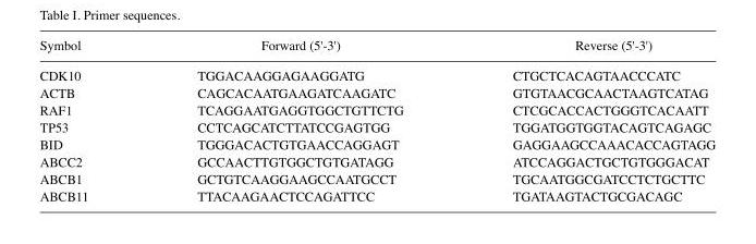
<table><thead><tr><td>Symbol</td><td>Forward (5&#x27;-3&#x27;)</td><td>Reverse (5&#x27;-3&#x27;)</td></tr></thead><tbody><tr><td>CDK10</td><td>TGGACAAGGAGAAGGATG</td><td>CTGCTCACAGTAACCCATC</td></tr><tr><td>ACTB</td><td>CAGCACAATGAAGATCAAGATC</td><td>GTGTAACGCAACTAAGTCATAG</td></tr><tr><td>RAF1</td><td>TCAGGAATGAGGTGGCTGTTCTG</td><td>CTCGCACCACTGGGTCACAATT</td></tr><tr><td>TP53</td><td>CCTCAGCATCTTATCCGAGTGG</td><td>TGGATGGTGGTACAGTCAGAGC</td></tr><tr><td>BID</td><td>TGGGACACTGTGAACCAGGAGT</td><td>GAGGAAGCCAAACACCAGTAGG</td></tr><tr><td>ABCC2</td><td>GCCAACTTGTGGCTGTGATAGG</td><td>ATCCAGGACTGCTGTGGGACAT</td></tr><tr><td>ABCB1</td><td>GCTGTCAAGGAAGCCAATGCCT</td><td>TGCAATGGCGATCCTCTGCTTC</td></tr><tr><td>ABCB11</td><td>TTACAAGAACTCCAGATTCC</td><td>TGATAAGTACTGCGACAGC</td></tr></tbody></table>